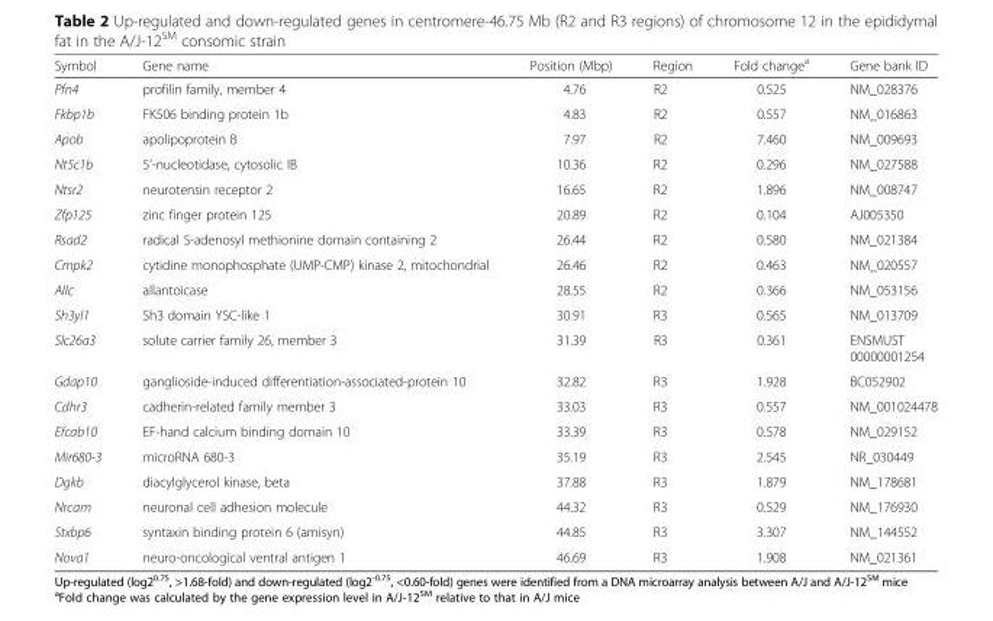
<table><thead><tr><td>Symbol</td><td>Gene name</td><td>Position (Mbp)</td><td>Region</td><td>Fold change<sup>a</sup></td><td>Gene bank ID</td></tr></thead><tbody><tr><td>Pfn4</td><td>profilin family, member 4</td><td>4.76</td><td>R2</td><td>0.525</td><td>NM_028376</td></tr><tr><td>Fkbp1b</td><td>FK506 binding protein 1b</td><td>4.83</td><td>R2</td><td>0.557</td><td>NM_016863</td></tr><tr><td>Apob</td><td>apolipoprotein B</td><td>7.97</td><td>R2</td><td>7.460</td><td>NM_009693</td></tr><tr><td>Nt5c1b</td><td>5’-nucleotidase, cytosolic IB</td><td>10.36</td><td>R2</td><td>0.296</td><td>NM_027588</td></tr><tr><td>Ntsr2</td><td>neurotensin receptor 2</td><td>16.65</td><td>R2</td><td>1.896</td><td>NM_008747</td></tr><tr><td>Zfp125</td><td>zinc finger protein 125</td><td>20.89</td><td>R2</td><td>0.104</td><td>AJ005350</td></tr><tr><td>Rsad2</td><td>radical S-adenosyl methionine domain containing 2</td><td>26.44</td><td>R2</td><td>0.580</td><td>NM_021384</td></tr><tr><td>Cmpk2</td><td>cytidine monophosphate (UMP-CMP) kinase 2, mitochondrial</td><td>26.46</td><td>R2</td><td>0.463</td><td>NM_020557</td></tr><tr><td>Allc</td><td>allantoicase</td><td>28.55</td><td>R2</td><td>0.366</td><td>NM_053156</td></tr><tr><td>Sh3yl1</td><td>Sh3 domain YSC-like 1</td><td>30.91</td><td>R3</td><td>0.565</td><td>NM_013709</td></tr><tr><td>Slc26a3</td><td>solute carrier family 26, member 3</td><td>31.39</td><td>R3</td><td>0.361</td><td>ENSMUST 00000001254</td></tr><tr><td>Gdap10</td><td>ganglioside-induced differentiation-associated-protein 10</td><td>32.82</td><td>R3</td><td>1.928</td><td>BC052902</td></tr><tr><td>Cdhr3</td><td>cadherin-related family member 3</td><td>33.03</td><td>R3</td><td>0.557</td><td>NM_001024478</td></tr><tr><td>Efcab10</td><td>EF-hand calcium binding domain 10</td><td>33.39</td><td>R3</td><td>0.578</td><td>NM_029152</td></tr><tr><td>Mir680-3</td><td>microRNA 680-3</td><td>35.19</td><td>R3</td><td>2.545</td><td>NR_030449</td></tr><tr><td>Dgkb</td><td>diacylglycerol kinase, beta</td><td>37.88</td><td>R3</td><td>1.879</td><td>NM_178681</td></tr><tr><td>Nrcam</td><td>neuronal cell adhesion molecule</td><td>44.32</td><td>R3</td><td>0.529</td><td>NM_176930</td></tr><tr><td>Stxbp6</td><td>syntaxin binding protein 6 (amisyn)</td><td>44.85</td><td>R3</td><td>3.307</td><td>NM_144552</td></tr><tr><td>Nova1</td><td>neuro-oncological ventral antigen 1</td><td>46.69</td><td>R3</td><td>1.908</td><td>NM_021361</td></tr></tbody></table>